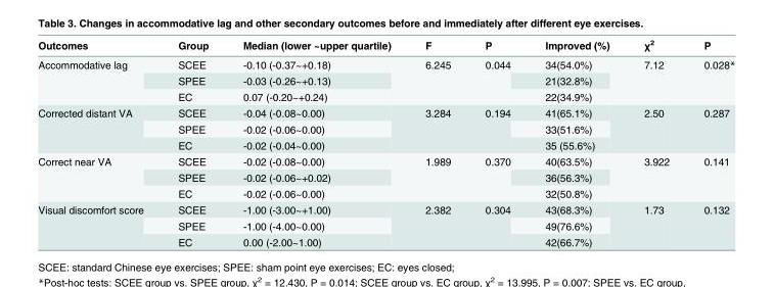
<table><thead><tr><td>Outcomes</td><td>Group</td><td>Median (lower ~upper quartile)</td><td>F</td><td>P</td><td>Improved (%)</td><td>χ<sup>2</sup></td><td>P</td></tr></thead><tbody><tr><td rowspan="3">Accommodative lag</td><td>SCEE</td><td>-0.10 (-0.37~+0.18)</td><td rowspan="3">6.245</td><td rowspan="3">0.044</td><td>34(54.0%)</td><td rowspan="3">7.12</td><td rowspan="3">0.028*</td></tr><tr><td>SPEE</td><td>-0.03 (-0.26~+0.13)</td><td>21(32.8%)</td></tr><tr><td>EC</td><td>0.07 (-0.20~+0.24)</td><td>22(34.9%)</td></tr><tr><td rowspan="3">Corrected distant VA</td><td>SCEE</td><td>-0.04 (-0.08~0.00)</td><td rowspan="3">3.284</td><td rowspan="3">0.194</td><td>41(65.1%)</td><td rowspan="3">2.50</td><td rowspan="3">0.287</td></tr><tr><td>SPEE</td><td>-0.02 (-0.06~0.00)</td><td>33(51.6%)</td></tr><tr><td>EC</td><td>-0.02 (-0.04~0.00)</td><td>35 (55.6%)</td></tr><tr><td rowspan="3">Correct near VA</td><td>SCEE</td><td>-0.02 (-0.08~0.00)</td><td rowspan="3">1.989</td><td rowspan="3">0.370</td><td>40(63.5%)</td><td rowspan="3">3.922</td><td rowspan="3">0.141</td></tr><tr><td>SPEE</td><td>-0.02 (-0.06~+0.02)</td><td>36(56.3%)</td></tr><tr><td>EC</td><td>-0.02 (-0.06~0.00)</td><td>32(50.8%)</td></tr><tr><td rowspan="3">Visual discomfort score</td><td>SCEE</td><td>-1.00 (-3.00~+1.00)</td><td rowspan="3">2.382</td><td rowspan="3">0.304</td><td>43(68.3%)</td><td rowspan="3">1.73</td><td rowspan="3">0.132</td></tr><tr><td>SPEE</td><td>-1.00 (-4.00~0.00)</td><td>49(76.6%)</td></tr><tr><td>EC</td><td>0.00 (-2.00~1.00)</td><td>42(66.7%)</td></tr></tbody></table>